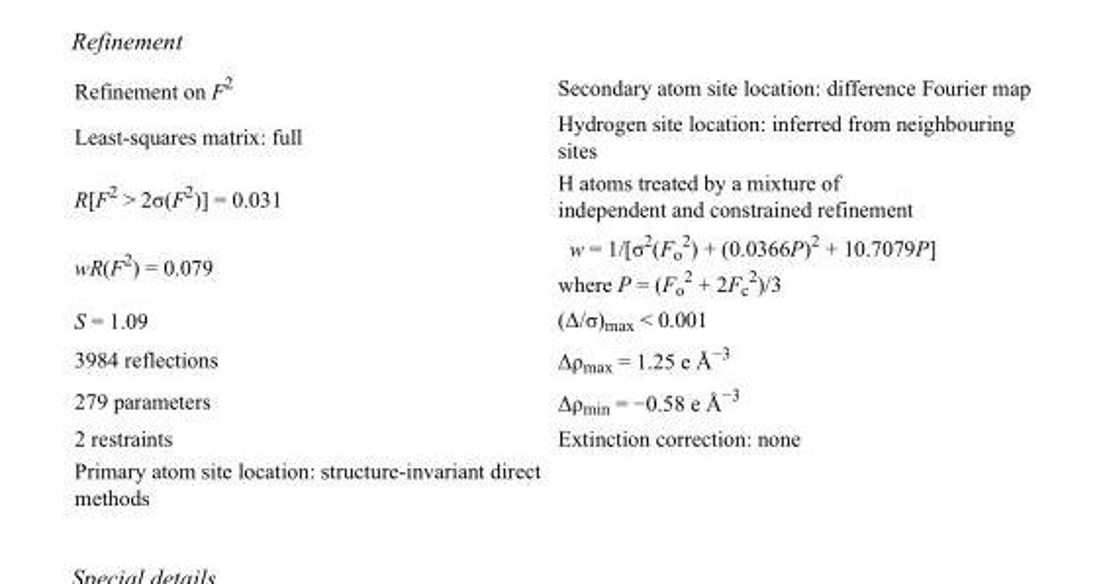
<table><tbody><tr><td>Refinement on F<sup>2</sup></td><td>Secondary atom site location: difference Fourier map</td></tr><tr><td>Least-squares matrix: full</td><td>Hydrogen site location: inferred from neighbouring sites</td></tr><tr><td>R[F<sup>2</sup> &gt; 2σ(F<sup>2</sup>)] = 0.031</td><td>H atoms treated by a mixture of independent and constrained refinement</td></tr><tr><td>wR(F<sup>2</sup>) = 0.079</td><td>w = 1/[σ<sup>2</sup>(F<sub>o</sub> <sup>2</sup>) + (0.0366P)<sup>2</sup> + 10.7079P] where P = (F<sub>o</sub> <sup>2</sup> + 2F<sub>c</sub> <sup>2</sup>)/3</td></tr><tr><td>S = 1.09</td><td>(Δ/σ)<sub>max</sub> &lt; 0.001</td></tr><tr><td>3984 reflections</td><td>Δρ<sub>max</sub> = 1.25 e Å<sup>−3</sup></td></tr><tr><td>279 parameters</td><td>Δρ<sub>min</sub> = −0.58 e Å<sup>−3</sup></td></tr><tr><td>2 restraints</td><td>Extinction correction: none</td></tr><tr><td>Primary atom site location: structure-invariant direct methods</td><td></td></tr></tbody></table>